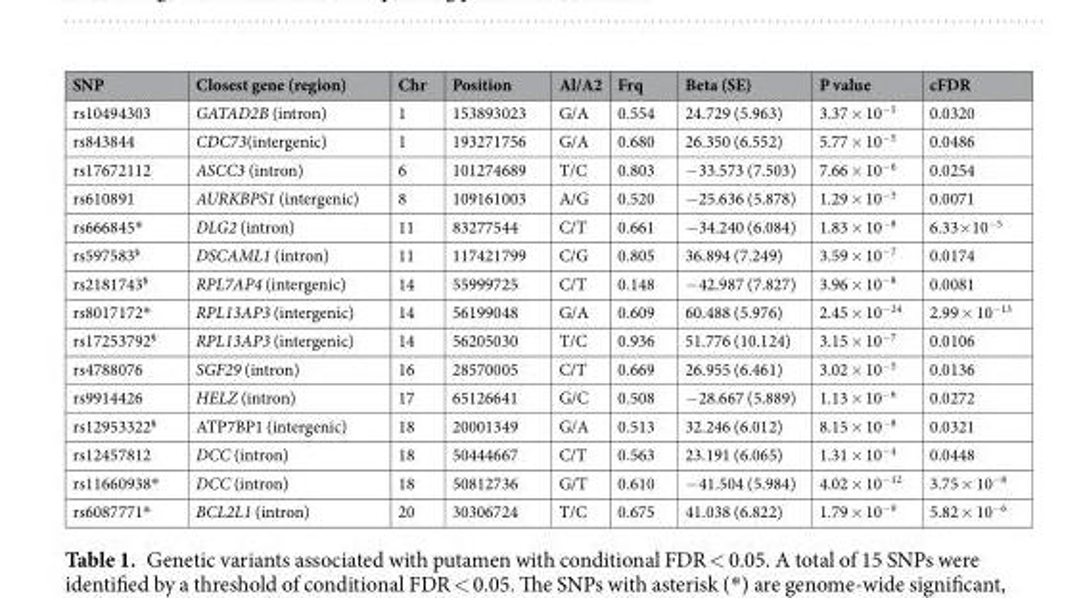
<table><thead><tr><td>SNP</td><td>Closest gene (region)</td><td>Chr</td><td>Position</td><td>Al/A2</td><td>Frq</td><td>Beta (SE)</td><td>P value</td><td>cFDR</td></tr></thead><tbody><tr><td>rs10494303</td><td>GATAD2B (intron)</td><td>1</td><td>153893023</td><td>G/A</td><td>0.554</td><td>24.729 (5.963)</td><td>3.37 × 10<sup>−5</sup></td><td>0.0320</td></tr><tr><td>rs843844</td><td>CDC73(intergenic)</td><td>1</td><td>193271756</td><td>G/A</td><td>0.680</td><td>26.350 (6.552)</td><td>5.77 × 10<sup>−5</sup></td><td>0.0486</td></tr><tr><td>rs17672112</td><td>ASCC3 (intron)</td><td>6</td><td>101274689</td><td>T/C</td><td>0.803</td><td>−33.573 (7.503)</td><td>7.66 × 10<sup>−6</sup></td><td>0.0254</td></tr><tr><td>rs610891</td><td>AURKBPS1 (intergenic)</td><td>8</td><td>109161003</td><td>A/G</td><td>0.520</td><td>−25.636 (5.878)</td><td>1.29 × 10<sup>−5</sup></td><td>0.0071</td></tr><tr><td>rs666845*</td><td>DLG2 (intron)</td><td>11</td><td>83277544</td><td>C/T</td><td>0.661</td><td>−34.240 (6.084)</td><td>1.83 × 10<sup>−8</sup></td><td>6.33×10<sup>−5</sup></td></tr><tr><td>rs597583<sup>§</sup></td><td>DSCAML1 (intron)</td><td>11</td><td>117421799</td><td>C/G</td><td>0.805</td><td>36.894 (7.249)</td><td>3.59 × 10<sup>−7</sup></td><td>0.0174</td></tr><tr><td>rs2181743<sup>§</sup></td><td>RPL7AP4 (intergenic)</td><td>14</td><td>55999725</td><td>C/T</td><td>0.148</td><td>−42.987 (7.827)</td><td>3.96 × 10<sup>−8</sup></td><td>0.0081</td></tr><tr><td>rs8017172*</td><td>RPL13AP3 (intergenic)</td><td>14</td><td>56199048</td><td>G/A</td><td>0.609</td><td>60.488 (5.976)</td><td>2.45 × 10<sup>−24</sup></td><td>2.99 × 10<sup>−13</sup></td></tr><tr><td>rs17253792<sup>§</sup></td><td>RPL13AP3 (intergenic)</td><td>14</td><td>56205030</td><td>T/C</td><td>0.936</td><td>51.776 (10.124)</td><td>3.15 × 10<sup>−7</sup></td><td>0.0106</td></tr><tr><td>rs4788076</td><td>SGF29 (intron)</td><td>16</td><td>28570005</td><td>C/T</td><td>0.669</td><td>26.955 (6.461)</td><td>3.02 × 10<sup>−5</sup></td><td>0.0136</td></tr><tr><td>rs9914426</td><td>HELZ (intron)</td><td>17</td><td>65126641</td><td>G/C</td><td>0.508</td><td>−28.667 (5.889)</td><td>1.13 × 10<sup>−6</sup></td><td>0.0272</td></tr><tr><td>rs12953322<sup>§</sup></td><td>ATP7BP1 (intergenic)</td><td>18</td><td>20001349</td><td>G/A</td><td>0.513</td><td>32.246 (6.012)</td><td>8.15 × 10<sup>−8</sup></td><td>0.0321</td></tr><tr><td>rs12457812</td><td>DCC (intron)</td><td>18</td><td>50444667</td><td>C/T</td><td>0.563</td><td>23.191 (6.065)</td><td>1.31 × 10<sup>−4</sup></td><td>0.0448</td></tr><tr><td>rs11660938*</td><td>DCC (intron)</td><td>18</td><td>50812736</td><td>G/T</td><td>0.610</td><td>−41.504 (5.984)</td><td>4.02 × 10<sup>−12</sup></td><td>3.75 × 10<sup>−8</sup></td></tr><tr><td>rs6087771*</td><td>BCL2L1 (intron)</td><td>20</td><td>30306724</td><td>T/C</td><td>0.675</td><td>41.038 (6.822)</td><td>1.79 × 10<sup>−9</sup></td><td>5.82 × 10<sup>−6</sup></td></tr></tbody></table>